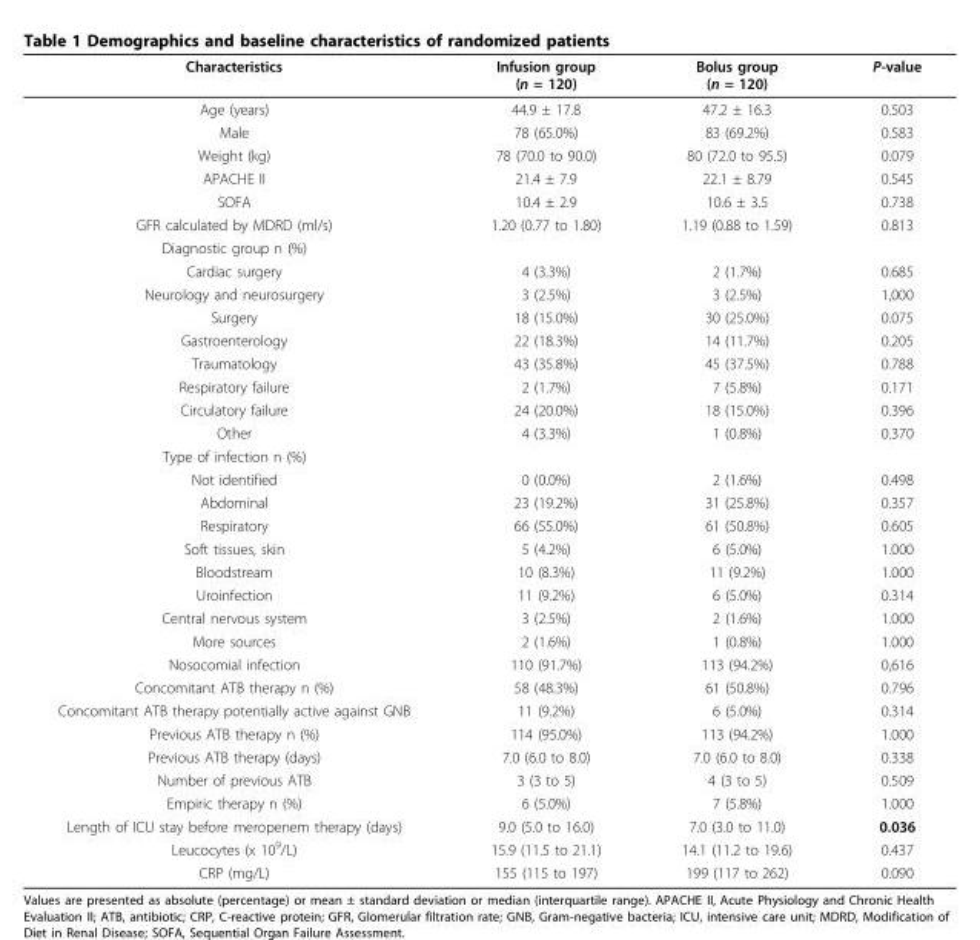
<table><thead><tr><td>Characteristics</td><td>Infusion group (n = 120)</td><td>Bolus group (n = 120)</td><td>P-value</td></tr></thead><tbody><tr><td>Age (years)</td><td>44.9 ± 17.8</td><td>47.2 ± 16.3</td><td>0.503</td></tr><tr><td>Male</td><td>78 (65.0%)</td><td>83 (69.2%)</td><td>0.583</td></tr><tr><td>Weight (kg)</td><td>78 (70.0 to 90.0)</td><td>80 (72.0 to 95.5)</td><td>0.079</td></tr><tr><td>APACHE II</td><td>21.4 ± 7.9</td><td>22.1 ± 8.79</td><td>0.545</td></tr><tr><td>SOFA</td><td>10.4 ± 2.9</td><td>10.6 ± 3.5</td><td>0.738</td></tr><tr><td>GFR calculated by MDRD (ml/s)</td><td>1.20 (0.77 to 1.80)</td><td>1.19 (0.88 to 1.59)</td><td>0.813</td></tr><tr><td colspan="4">Diagnostic group n (%)</td></tr><tr><td>Cardiac surgery</td><td>4 (3.3%)</td><td>2 (1.7%)</td><td>0.685</td></tr><tr><td>Neurology and neurosurgery</td><td>3 (2.5%)</td><td>3 (2.5%)</td><td>1,000</td></tr><tr><td>Surgery</td><td>18 (15.0%)</td><td>30 (25.0%)</td><td>0.075</td></tr><tr><td>Gastroenterology</td><td>22 (18.3%)</td><td>14 (11.7%)</td><td>0.205</td></tr><tr><td>Traumatology</td><td>43 (35.8%)</td><td>45 (37.5%)</td><td>0.788</td></tr><tr><td>Respiratory failure</td><td>2 (1.7%)</td><td>7 (5.8%)</td><td>0.171</td></tr><tr><td>Circulatory failure</td><td>24 (20.0%)</td><td>18 (15.0%)</td><td>0.396</td></tr><tr><td>Other</td><td>4 (3.3%)</td><td>1 (0.8%)</td><td>0.370</td></tr><tr><td colspan="4">Type of infection n (%)</td></tr><tr><td>Not identified</td><td>0 (0.0%)</td><td>2 (1.6%)</td><td>0.498</td></tr><tr><td>Abdominal</td><td>23 (19.2%)</td><td>31 (25.8%)</td><td>0.357</td></tr><tr><td>Respiratory</td><td>66 (55.0%)</td><td>61 (50.8%)</td><td>0.605</td></tr><tr><td>Soft tissues, skin</td><td>5 (4.2%)</td><td>6 (5.0%)</td><td>1.000</td></tr><tr><td>Bloodstream</td><td>10 (8.3%)</td><td>11 (9.2%)</td><td>1.000</td></tr><tr><td>Uroinfection</td><td>11 (9.2%)</td><td>6 (5.0%)</td><td>0.314</td></tr><tr><td>Central nervous system</td><td>3 (2.5%)</td><td>2 (1.6%)</td><td>1.000</td></tr><tr><td>More sources</td><td>2 (1.6%)</td><td>1 (0.8%)</td><td>1.000</td></tr><tr><td>Nosocomial infection</td><td>110 (91.7%)</td><td>113 (94.2%)</td><td>0,616</td></tr><tr><td>Concomitant ATB therapy n (%)</td><td>58 (48.3%)</td><td>61 (50.8%)</td><td>0.796</td></tr><tr><td>Concomitant ATB therapy potentially active against GNB</td><td>11 (9.2%)</td><td>6 (5.0%)</td><td>0.314</td></tr><tr><td>Previous ATB therapy n (%)</td><td>114 (95.0%)</td><td>113 (94.2%)</td><td>1.000</td></tr><tr><td>Previous ATB therapy (days)</td><td>7.0 (6.0 to 8.0)</td><td>7.0 (6.0 to 8.0)</td><td>0.338</td></tr><tr><td>Number of previous ATB</td><td>3 (3 to 5)</td><td>4 (3 to 5)</td><td>0.509</td></tr><tr><td>Empiric therapy n (%)</td><td>6 (5.0%)</td><td>7 (5.8%)</td><td>1.000</td></tr><tr><td>Length of ICU stay before meropenem therapy (days)</td><td>9.0 (5.0 to 16.0)</td><td>7.0 (3.0 to 11.0)</td><td>0.036</td></tr><tr><td>Leucocytes (x 10<sup>9</sup>/L)</td><td>15.9 (11.5 to 21.1)</td><td>14.1 (11.2 to 19.6)</td><td>0.437</td></tr><tr><td>CRP (mg/L)</td><td>155 (115 to 197)</td><td>199 (117 to 262)</td><td>0.090</td></tr></tbody></table>